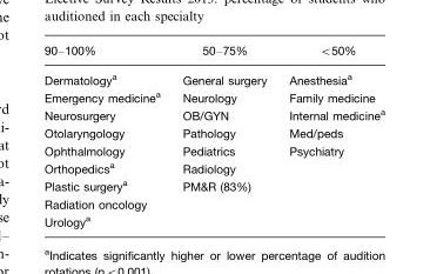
<table><thead><tr><td>90–100%</td><td>50–75%</td><td>&lt;50%</td></tr></thead><tbody><tr><td>Dermatology<sup>a</sup></td><td>General surgery</td><td>Anesthesia<sup>a</sup></td></tr><tr><td>Emergency medicine<sup>a</sup></td><td>Neurology</td><td>Family medicine</td></tr><tr><td>Neurosurgery</td><td>OB/GYN</td><td>Internal medicine<sup>a</sup></td></tr><tr><td>Otolaryngology</td><td>Pathology</td><td>Med/peds</td></tr><tr><td>Ophthalmology</td><td>Pediatrics</td><td>Psychiatry</td></tr><tr><td>Orthopedics<sup>a</sup></td><td>Radiology</td><td></td></tr><tr><td>Plastic surgery<sup>a</sup></td><td>PM&amp;R (83%)</td><td></td></tr><tr><td colspan="3">Radiation oncology</td></tr><tr><td>Urology<sup>a</sup></td><td></td><td></td></tr></tbody></table>